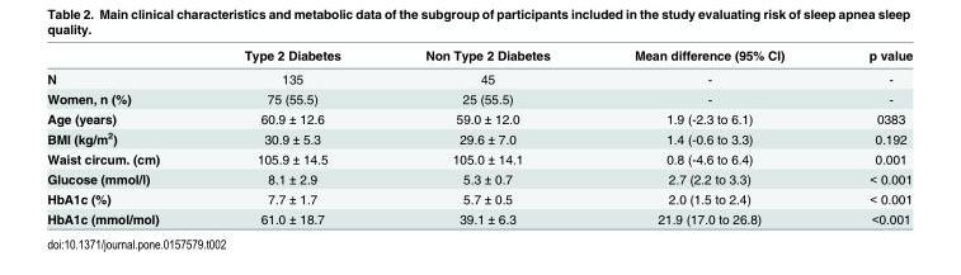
<table><thead><tr><td></td><td>Type 2 Diabetes</td><td>Non Type 2 Diabetes</td><td>Mean difference (95% CI)</td><td>p value</td></tr></thead><tbody><tr><td>N</td><td>135</td><td>45</td><td>-</td><td>-</td></tr><tr><td>Women, n (%)</td><td>75 (55.5)</td><td>25 (55.5)</td><td>-</td><td>-</td></tr><tr><td>Age (years)</td><td>60.9 ± 12.6</td><td>59.0 ± 12.0</td><td>1.9 (-2.3 to 6.1)</td><td>0383</td></tr><tr><td>BMI (kg/m<sup>2</sup>)</td><td>30.9 ± 5.3</td><td>29.6 ± 7.0</td><td>1.4 (-0.6 to 3.3)</td><td>0.192</td></tr><tr><td>Waist circum. (cm)</td><td>105.9 ± 14.5</td><td>105.0 ± 14.1</td><td>0.8 (-4.6 to 6.4)</td><td>0.001</td></tr><tr><td>Glucose (mmol/l)</td><td>8.1 ± 2.9</td><td>5.3 ± 0.7</td><td>2.7 (2.2 to 3.3)</td><td>&lt; 0.001</td></tr><tr><td>HbA1c (%)</td><td>7.7 ± 1.7</td><td>5.7 ± 0.5</td><td>2.0 (1.5 to 2.4)</td><td>&lt; 0.001</td></tr><tr><td>HbA1c (mmol/mol)</td><td>61.0 ± 18.7</td><td>39.1 ± 6.3</td><td>21.9 (17.0 to 26.8)</td><td>&lt;0.001</td></tr></tbody></table>